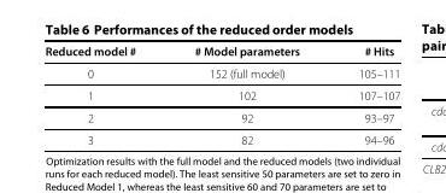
<table><thead><tr><td>Reduced model #</td><td># Model parameters</td><td># Hits</td></tr></thead><tbody><tr><td>0</td><td>152 (full model)</td><td>105–111</td></tr><tr><td>1</td><td>102</td><td>107–107</td></tr><tr><td>2</td><td>92</td><td>93–97</td></tr><tr><td>3</td><td>82</td><td>94–96</td></tr></tbody></table>